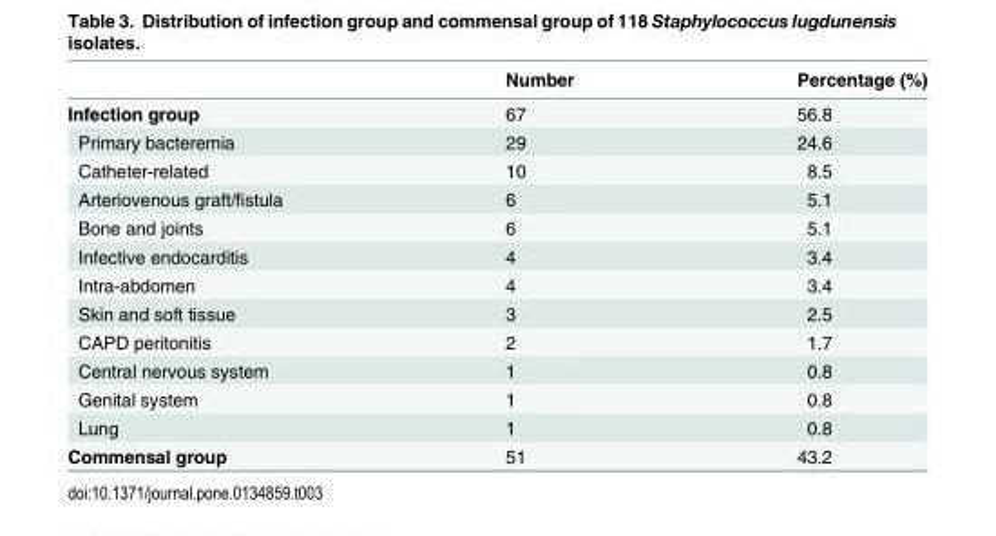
<table><thead><tr><td></td><td>Number</td><td>Percentage (%)</td></tr></thead><tbody><tr><td>Infection group</td><td>67</td><td>56.8</td></tr><tr><td>Primary bacteremia</td><td>29</td><td>24.6</td></tr><tr><td>Catheter-related</td><td>10</td><td>8.5</td></tr><tr><td>Arteriovenous graft/fistula</td><td>6</td><td>5.1</td></tr><tr><td>Bone and joints</td><td>6</td><td>5.1</td></tr><tr><td>Infective endocarditis</td><td>4</td><td>3.4</td></tr><tr><td>Intra-abdomen</td><td>4</td><td>3.4</td></tr><tr><td>Skin and soft tissue</td><td>3</td><td>2.5</td></tr><tr><td>CAPD peritonitis</td><td>2</td><td>1.7</td></tr><tr><td>Central nervous system</td><td>1</td><td>0.8</td></tr><tr><td>Genital system</td><td>1</td><td>0.8</td></tr><tr><td>Lung</td><td>1</td><td>0.8</td></tr><tr><td>Commensal group</td><td>51</td><td>43.2</td></tr></tbody></table>